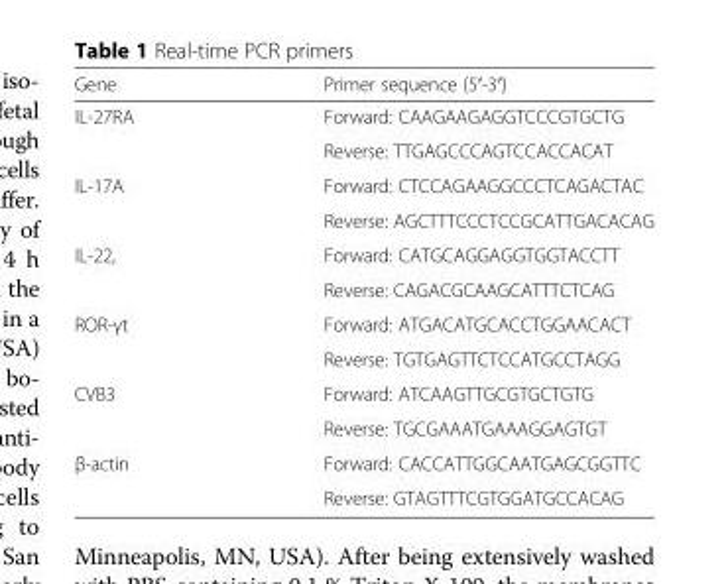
<table><thead><tr><td>Gene</td><td>Primer sequence (5′-3′)</td></tr></thead><tbody><tr><td rowspan="2">IL-27RA</td><td>Forward: CAAGAAGAGGTCCCGTGCTG</td></tr><tr><td>Reverse: TTGAGCCCAGTCCACCACAT</td></tr><tr><td rowspan="2">IL-17A</td><td>Forward: CTCCAGAAGGCCCTCAGACTAC</td></tr><tr><td>Reverse: AGCTTTCCCTCCGCATTGACACAG</td></tr><tr><td rowspan="2">IL-22,</td><td>Forward: CATGCAGGAGGTGGTACCTT</td></tr><tr><td>Reverse: CAGACGCAAGCATTTCTCAG</td></tr><tr><td rowspan="2">ROR-γt</td><td>Forward: ATGACATGCACCTGGAACACT</td></tr><tr><td>Reverse: TGTGAGTTCTCCATGCCTAGG</td></tr><tr><td rowspan="2">CVB3</td><td>Forward: ATCAAGTTGCGTGCTGTG</td></tr><tr><td>Reverse: TGCGAAATGAAAGGAGTGT</td></tr><tr><td rowspan="2">β-actin</td><td>Forward: CACCATTGGCAATGAGCGGTTC</td></tr><tr><td>Reverse: GTAGTTTCGTGGATGCCACAG</td></tr></tbody></table>